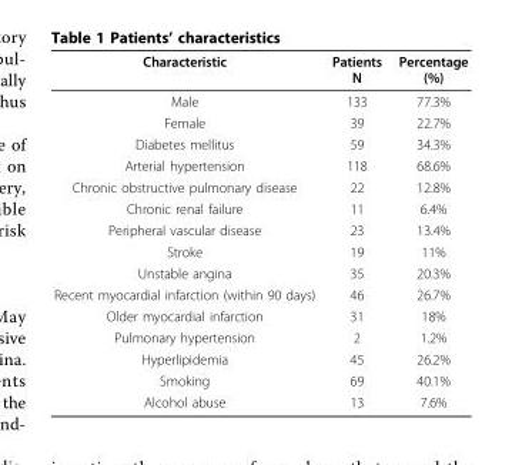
<table><thead><tr><td>Characteristic</td><td>Patients Ν</td><td>Percentage (%)</td></tr></thead><tbody><tr><td>Male</td><td>133</td><td>77.3%</td></tr><tr><td>Female</td><td>39</td><td>22.7%</td></tr><tr><td>Diabetes mellitus</td><td>59</td><td>34.3%</td></tr><tr><td>Arterial hypertension</td><td>118</td><td>68.6%</td></tr><tr><td>Chronic obstructive pulmonary disease</td><td>22</td><td>12.8%</td></tr><tr><td>Chronic renal failure</td><td>11</td><td>6.4%</td></tr><tr><td>Peripheral vascular disease</td><td>23</td><td>13.4%</td></tr><tr><td>Stroke</td><td>19</td><td>11%</td></tr><tr><td>Unstable angina</td><td>35</td><td>20.3%</td></tr><tr><td>Recent myocardial infarction (within 90 days)</td><td>46</td><td>26.7%</td></tr><tr><td>Older myocardial infarction</td><td>31</td><td>18%</td></tr><tr><td>Pulmonary hypertension</td><td>2</td><td>1.2%</td></tr><tr><td>Hyperlipidemia</td><td>45</td><td>26.2%</td></tr><tr><td>Smoking</td><td>69</td><td>40.1%</td></tr><tr><td>Alcohol abuse</td><td>13</td><td>7.6%</td></tr></tbody></table>